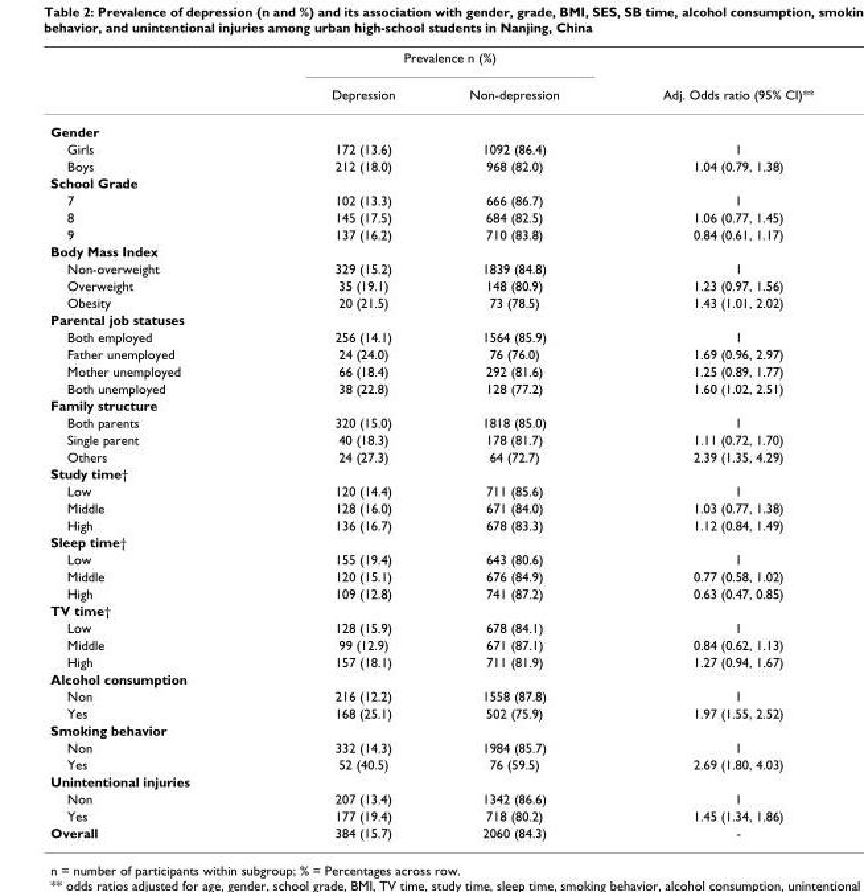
<table><thead><tr><td rowspan="2"></td><td colspan="2">Prevalence n (%)</td><td rowspan="2">Adj. Odds ratio (95% CI)**</td></tr><tr><td>Depression</td><td>Non-depression</td></tr></thead><tbody><tr><td colspan="4">Gender</td></tr><tr><td>Girls</td><td>172 (13.6)</td><td>1092 (86.4)</td><td>1</td></tr><tr><td>Boys</td><td>212 (18.0)</td><td>968 (82.0)</td><td>1.04 (0.79, 1.38)</td></tr><tr><td colspan="4">School Grade</td></tr><tr><td>7</td><td>102 (13.3)</td><td>666 (86.7)</td><td>1</td></tr><tr><td>8</td><td>145 (17.5)</td><td>684 (82.5)</td><td>1.06 (0.77, 1.45)</td></tr><tr><td>9</td><td>137 (16.2)</td><td>710 (83.8)</td><td>0.84 (0.61, 1.17)</td></tr><tr><td colspan="4">Body Mass Index</td></tr><tr><td>Non-overweight</td><td>329 (15.2)</td><td>1839 (84.8)</td><td>1</td></tr><tr><td>Overweight</td><td>35 (19.1)</td><td>148 (80.9)</td><td>1.23 (0.97, 1.56)</td></tr><tr><td>Obesity</td><td>20 (21.5)</td><td>73 (78.5)</td><td>1.43 (1.01, 2.02)</td></tr><tr><td colspan="4">Parental job statuses</td></tr><tr><td>Both employed</td><td>256 (14.1)</td><td>1564 (85.9)</td><td>1</td></tr><tr><td>Father unemployed</td><td>24 (24.0)</td><td>76 (76.0)</td><td>1.69 (0.96, 2.97)</td></tr><tr><td>Mother unemployed</td><td>66 (18.4)</td><td>292 (81.6)</td><td>1.25 (0.89, 1.77)</td></tr><tr><td>Both unemployed</td><td>38 (22.8)</td><td>128 (77.2)</td><td>1.60 (1.02, 2.51)</td></tr><tr><td colspan="4">Family structure</td></tr><tr><td>Both parents</td><td>320 (15.0)</td><td>1818 (85.0)</td><td>1</td></tr><tr><td>Single parent</td><td>40 (18.3)</td><td>178 (81.7)</td><td>1.11 (0.72, 1.70)</td></tr><tr><td>Others</td><td>24 (27.3)</td><td>64 (72.7)</td><td>2.39 (1.35, 4.29)</td></tr><tr><td colspan="4">Study time†</td></tr><tr><td>Low</td><td>120 (14.4)</td><td>711 (85.6)</td><td>1</td></tr><tr><td>Middle</td><td>128 (16.0)</td><td>671 (84.0)</td><td>1.03 (0.77, 1.38)</td></tr><tr><td>High</td><td>136 (16.7)</td><td>678 (83.3)</td><td>1.12 (0.84, 1.49)</td></tr><tr><td colspan="4">Sleep time†</td></tr><tr><td>Low</td><td>155 (19.4)</td><td>643 (80.6)</td><td>1</td></tr><tr><td>Middle</td><td>120 (15.1)</td><td>676 (84.9)</td><td>0.77 (0.58, 1.02)</td></tr><tr><td>High</td><td>109 (12.8)</td><td>741 (87.2)</td><td>0.63 (0.47, 0.85)</td></tr><tr><td colspan="4">TV time†</td></tr><tr><td>Low</td><td>128 (15.9)</td><td>678 (84.1)</td><td>1</td></tr><tr><td>Middle</td><td>99 (12.9)</td><td>671 (87.1)</td><td>0.84 (0.62, 1.13)</td></tr><tr><td>High</td><td>157 (18.1)</td><td>711 (81.9)</td><td>1.27 (0.94, 1.67)</td></tr><tr><td colspan="4">Alcohol consumption</td></tr><tr><td>Non</td><td>216 (12.2)</td><td>1558 (87.8)</td><td>1</td></tr><tr><td>Yes</td><td>168 (25.1)</td><td>502 (75.9)</td><td>1.97 (1.55, 2.52)</td></tr><tr><td colspan="4">Smoking behavior</td></tr><tr><td>Non</td><td>332 (14.3)</td><td>1984 (85.7)</td><td>1</td></tr><tr><td>Yes</td><td>52 (40.5)</td><td>76 (59.5)</td><td>2.69 (1.80, 4.03)</td></tr><tr><td colspan="4">Unintentional injuries</td></tr><tr><td>Non</td><td>207 (13.4)</td><td>1342 (86.6)</td><td>1</td></tr><tr><td>Yes</td><td>177 (19.4)</td><td>718 (80.2)</td><td>1.45 (1.34, 1.86)</td></tr><tr><td>Overall</td><td>384 (15.7)</td><td>2060 (84.3)</td><td>-</td></tr></tbody></table>